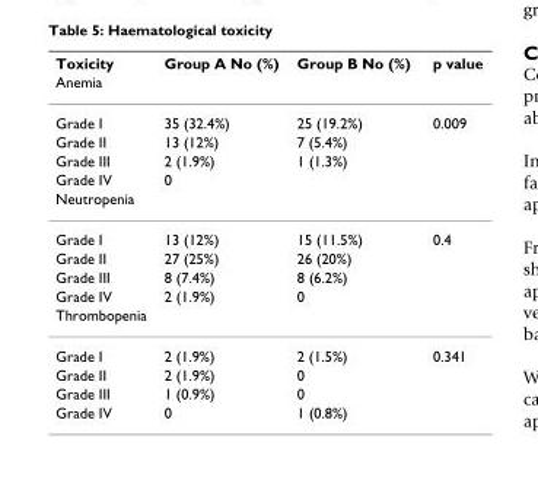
<table><thead><tr><td rowspan="2">Toxicity Anemia</td><td rowspan="2">Group A No (%)</td><td rowspan="2">Group B No (%)</td><td rowspan="2">p value</td></tr><tr></tr></thead><tbody><tr><td>Grade I</td><td>35 (32.4%)</td><td>25 (19.2%)</td><td>0.009</td></tr><tr><td>Grade II</td><td>13 (12%)</td><td>7 (5.4%)</td><td></td></tr><tr><td>Grade III</td><td>2 (1.9%)</td><td>1 (1.3%)</td><td></td></tr><tr><td>Grade IV</td><td>0</td><td></td><td></td></tr><tr><td colspan="4">Neutropenia</td></tr><tr><td>Grade I</td><td>13 (12%)</td><td>15 (11.5%)</td><td>0.4</td></tr><tr><td>Grade II</td><td>27 (25%)</td><td>26 (20%)</td><td></td></tr><tr><td>Grade III</td><td>8 (7.4%)</td><td>8 (6.2%)</td><td></td></tr><tr><td>Grade IV</td><td>2 (1.9%)</td><td>0</td><td></td></tr><tr><td colspan="4">Thrombopenia</td></tr><tr><td>Grade I</td><td>2 (1.9%)</td><td>2 (1.5%)</td><td>0.341</td></tr><tr><td>Grade II</td><td>2 (1.9%)</td><td>0</td><td></td></tr><tr><td>Grade III</td><td>1 (0.9%)</td><td>0</td><td></td></tr><tr><td>Grade IV</td><td>0</td><td>1 (0.8%)</td><td></td></tr></tbody></table>